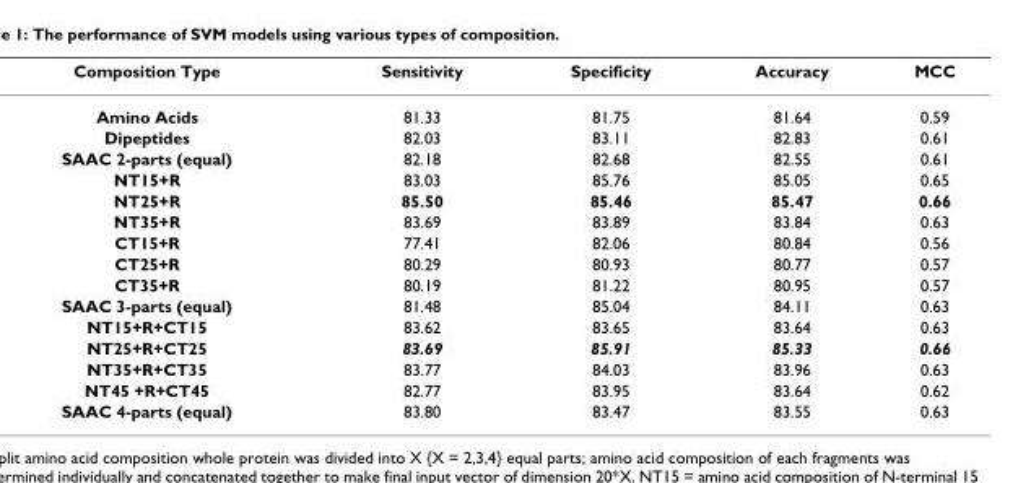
<table><thead><tr><td>Composition Type</td><td>Sensitivity</td><td>Specificity</td><td>Accuracy</td><td>MCC</td></tr></thead><tbody><tr><td>Amino Acids</td><td>81.33</td><td>81.75</td><td>81.64</td><td>0.59</td></tr><tr><td>Dipeptides</td><td>82.03</td><td>83.11</td><td>82.83</td><td>0.61</td></tr><tr><td>SAAC 2-parts (equal)</td><td>82.18</td><td>82.68</td><td>82.55</td><td>0.61</td></tr><tr><td>NT15+R</td><td>83.03</td><td>85.76</td><td>85.05</td><td>0.65</td></tr><tr><td>NT25+R</td><td>85.50</td><td>85.46</td><td>85.47</td><td>0.66</td></tr><tr><td>NT35+R</td><td>83.69</td><td>83.89</td><td>83.84</td><td>0.63</td></tr><tr><td>CT15+R</td><td>77.41</td><td>82.06</td><td>80.84</td><td>0.56</td></tr><tr><td>CT25+R</td><td>80.29</td><td>80.93</td><td>80.77</td><td>0.57</td></tr><tr><td>CT35+R</td><td>80.19</td><td>81.22</td><td>80.95</td><td>0.57</td></tr><tr><td>SAAC 3-parts (equal)</td><td>81.48</td><td>85.04</td><td>84.11</td><td>0.63</td></tr><tr><td>NT15+R+CT15</td><td>83.62</td><td>83.65</td><td>83.64</td><td>0.63</td></tr><tr><td>NT25+R+CT25</td><td>83.69</td><td>85.91</td><td>85.33</td><td>0.66</td></tr><tr><td>NT35+R+CT35</td><td>83.77</td><td>84.03</td><td>83.96</td><td>0.63</td></tr><tr><td>NT45 +R+CT45</td><td>82.77</td><td>83.95</td><td>83.64</td><td>0.62</td></tr><tr><td>SAAC 4-parts (equal)</td><td>83.80</td><td>83.47</td><td>83.55</td><td>0.63</td></tr></tbody></table>